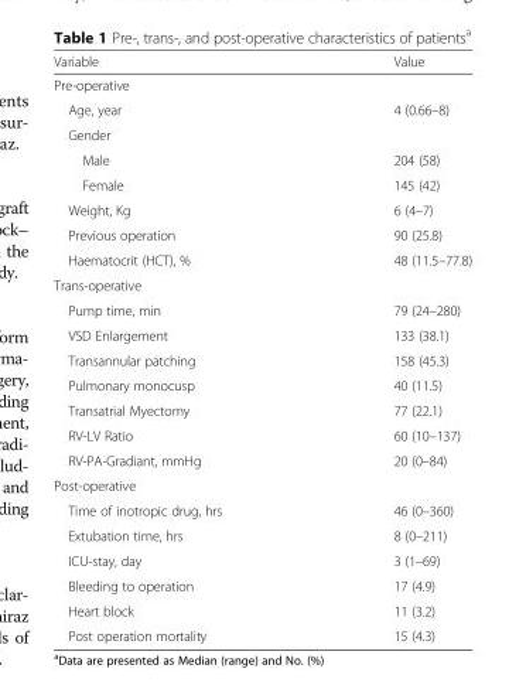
<table><thead><tr><td>Variable</td><td>Value</td></tr></thead><tbody><tr><td colspan="2">Pre-operative</td></tr><tr><td>Age, year</td><td>4 (0.66–8)</td></tr><tr><td colspan="2">Gender</td></tr><tr><td>Male</td><td>204 (58)</td></tr><tr><td>Female</td><td>145 (42)</td></tr><tr><td>Weight, Kg</td><td>6 (4–7)</td></tr><tr><td>Previous operation</td><td>90 (25.8)</td></tr><tr><td>Haematocrit (HCT), %</td><td>48 (11.5–77.8)</td></tr><tr><td colspan="2">Trans-operative</td></tr><tr><td>Pump time, min</td><td>79 (24–280)</td></tr><tr><td>VSD Enlargement</td><td>133 (38.1)</td></tr><tr><td>Transannular patching</td><td>158 (45.3)</td></tr><tr><td>Pulmonary monocusp</td><td>40 (11.5)</td></tr><tr><td>Transatrial Myectomy</td><td>77 (22.1)</td></tr><tr><td>RV-LV Ratio</td><td>60 (10–137)</td></tr><tr><td>RV-PA-Gradiant, mmHg</td><td>20 (0–84)</td></tr><tr><td colspan="2">Post-operative</td></tr><tr><td>Time of inotropic drug, hrs</td><td>46 (0–360)</td></tr><tr><td>Extubation time, hrs</td><td>8 (0–211)</td></tr><tr><td>ICU-stay, day</td><td>3 (1–69)</td></tr><tr><td>Bleeding to operation</td><td>17 (4.9)</td></tr><tr><td>Heart block</td><td>11 (3.2)</td></tr><tr><td>Post operation mortality</td><td>15 (4.3)</td></tr></tbody></table>